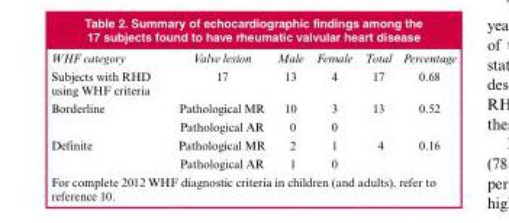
<table><thead><tr><td>WHF category</td><td>Valve lesion</td><td>Male</td><td>Female</td><td>Total</td><td>Percentage</td></tr></thead><tbody><tr><td>Subjects with RHD using WHF criteria</td><td>17</td><td>13</td><td>4</td><td>17</td><td>0.68</td></tr><tr><td rowspan="2">Borderline</td><td>Pathological MR</td><td>10</td><td>3</td><td>13</td><td>0.52</td></tr><tr><td>Pathological AR</td><td>0</td><td>0</td><td></td><td></td></tr><tr><td rowspan="2">Definite</td><td>Pathological MR</td><td>2</td><td>1</td><td>4</td><td>0.16</td></tr><tr><td>Pathological AR</td><td>1</td><td>0</td><td></td><td></td></tr></tbody></table>